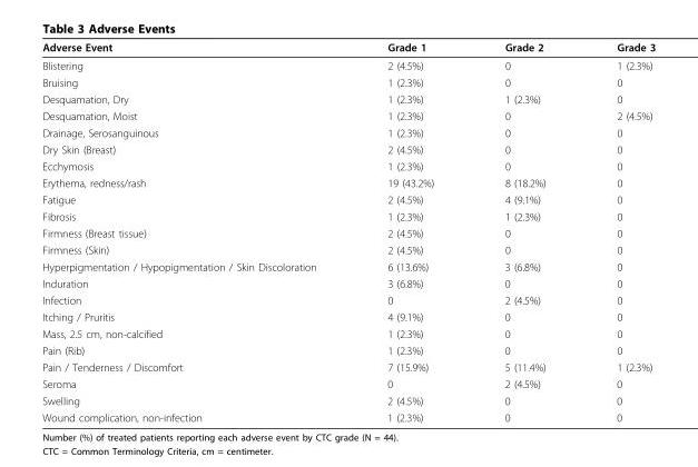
<table><thead><tr><td>Adverse Event</td><td>Grade 1</td><td>Grade 2</td><td>Grade 3</td></tr></thead><tbody><tr><td>Blistering</td><td>2 (4.5%)</td><td>0</td><td>1 (2.3%)</td></tr><tr><td>Bruising</td><td>1 (2.3%)</td><td>0</td><td>0</td></tr><tr><td>Desquamation, Dry</td><td>1 (2.3%)</td><td>1 (2.3%)</td><td>0</td></tr><tr><td>Desquamation, Moist</td><td>1 (2.3%)</td><td>0</td><td>2 (4.5%)</td></tr><tr><td>Drainage, Serosanguinous</td><td>1 (2.3%)</td><td>0</td><td>0</td></tr><tr><td>Dry Skin (Breast)</td><td>2 (4.5%)</td><td>0</td><td>0</td></tr><tr><td>Ecchymosis</td><td>1 (2.3%)</td><td>0</td><td>0</td></tr><tr><td>Erythema, redness/rash</td><td>19 (43.2%)</td><td>8 (18.2%)</td><td>0</td></tr><tr><td>Fatigue</td><td>2 (4.5%)</td><td>4 (9.1%)</td><td>0</td></tr><tr><td>Fibrosis</td><td>1 (2.3%)</td><td>1 (2.3%)</td><td>0</td></tr><tr><td>Firmness (Breast tissue)</td><td>2 (4.5%)</td><td>0</td><td>0</td></tr><tr><td>Firmness (Skin)</td><td>2 (4.5%)</td><td>0</td><td>0</td></tr><tr><td>Hyperpigmentation / Hypopigmentation / Skin Discoloration</td><td>6 (13.6%)</td><td>3 (6.8%)</td><td>0</td></tr><tr><td>Induration</td><td>3 (6.8%)</td><td>0</td><td>0</td></tr><tr><td>Infection</td><td>0</td><td>2 (4.5%)</td><td>0</td></tr><tr><td>Itching / Pruritis</td><td>4 (9.1%)</td><td>0</td><td>0</td></tr><tr><td>Mass, 2.5 cm, non-calcified</td><td>1 (2.3%)</td><td>0</td><td>0</td></tr><tr><td>Pain (Rib)</td><td>1 (2.3%)</td><td>0</td><td>0</td></tr><tr><td>Pain / Tenderness / Discomfort</td><td>7 (15.9%)</td><td>5 (11.4%)</td><td>1 (2.3%)</td></tr><tr><td>Seroma</td><td>0</td><td>2 (4.5%)</td><td>0</td></tr><tr><td>Swelling</td><td>2 (4.5%)</td><td>0</td><td>0</td></tr><tr><td>Wound complication, non-infection</td><td>1 (2.3%)</td><td>0</td><td>0</td></tr></tbody></table>